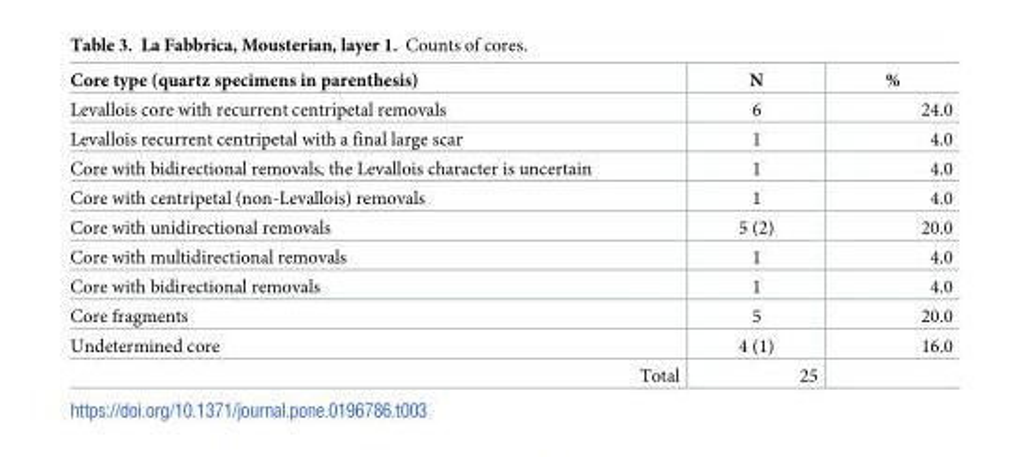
<table><thead><tr><td>Core type (quartz specimens in parenthesis)</td><td>N</td><td>%</td></tr></thead><tbody><tr><td>Levallois core with recurrent centripetal removals</td><td>6</td><td>24.0</td></tr><tr><td>Levallois recurrent centripetal with a final large scar</td><td>1</td><td>4.0</td></tr><tr><td>Core with bidirectional removals, the Levallois character is uncertain</td><td>1</td><td>4.0</td></tr><tr><td>Core with centripetal (non-Levallois) removals</td><td>1</td><td>4.0</td></tr><tr><td>Core with unidirectional removals</td><td>5 (2)</td><td>20.0</td></tr><tr><td>Core with multidirectional removals</td><td>1</td><td>4.0</td></tr><tr><td>Core with bidirectional removals</td><td>1</td><td>4.0</td></tr><tr><td>Core fragments</td><td>5</td><td>20.0</td></tr><tr><td>Undetermined core</td><td>4 (1)</td><td>16.0</td></tr><tr><td>Total</td><td>25</td><td></td></tr></tbody></table>